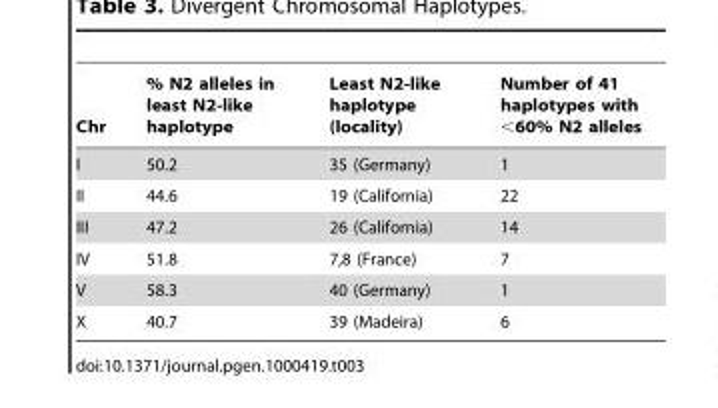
<table><thead><tr><td>Chr</td><td>% N2 alleles in least N2-like haplotype</td><td>Least N2-like haplotype (locality)</td><td>Number of 41 haplotypes with &lt;60% N2 alleles</td></tr></thead><tbody><tr><td>I</td><td>50.2</td><td>35 (Germany)</td><td>1</td></tr><tr><td>II</td><td>44.6</td><td>19 (California)</td><td>22</td></tr><tr><td>III</td><td>47.2</td><td>26 (California)</td><td>14</td></tr><tr><td>IV</td><td>51.8</td><td>7,8 (France)</td><td>7</td></tr><tr><td>V</td><td>58.3</td><td>40 (Germany)</td><td>1</td></tr><tr><td>X</td><td>40.7</td><td>39 (Madeira)</td><td>6</td></tr></tbody></table>